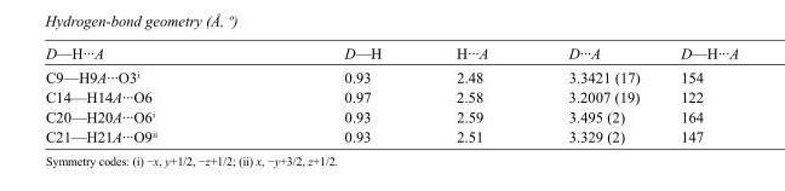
<table><tbody><tr><td>D—H···A</td><td>D—H</td><td>H···A</td><td>D···A</td><td>D—H···A</td></tr><tr><td>C9—H9A···O3<sup>i</sup></td><td>0.93</td><td>2.48</td><td>3.3421 (17)</td><td>154</td></tr><tr><td>C14—H14A···O6</td><td>0.97</td><td>2.58</td><td>3.2007 (19)</td><td>122</td></tr><tr><td>C20—H20A···O6<sup>i</sup></td><td>0.93</td><td>2.59</td><td>3.495 (2)</td><td>164</td></tr><tr><td>C21—H21A···O9<sup>ii</sup></td><td>0.93</td><td>2.51</td><td>3.329 (2)</td><td>147</td></tr></tbody></table>